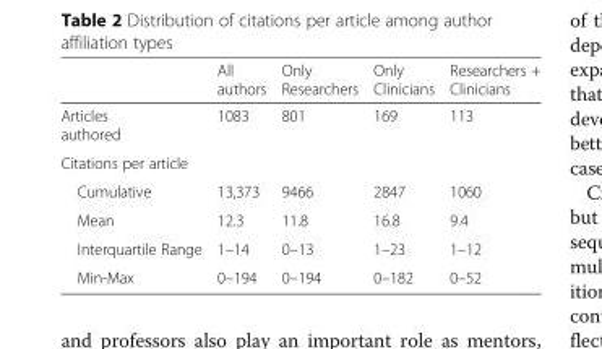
<table><thead><tr><td></td><td>All authors</td><td>Only Researchers</td><td>Only Clinicians</td><td>Researchers + Clinicians</td></tr></thead><tbody><tr><td>Articles authored</td><td>1083</td><td>801</td><td>169</td><td>113</td></tr><tr><td colspan="5">Citations per article</td></tr><tr><td>Cumulative</td><td>13,373</td><td>9466</td><td>2847</td><td>1060</td></tr><tr><td>Mean</td><td>12.3</td><td>11.8</td><td>16.8</td><td>9.4</td></tr><tr><td>Interquartile Range</td><td>1–14</td><td>0–13</td><td>1–23</td><td>1–12</td></tr><tr><td>Min-Max</td><td>0–194</td><td>0–194</td><td>0–182</td><td>0–52</td></tr></tbody></table>